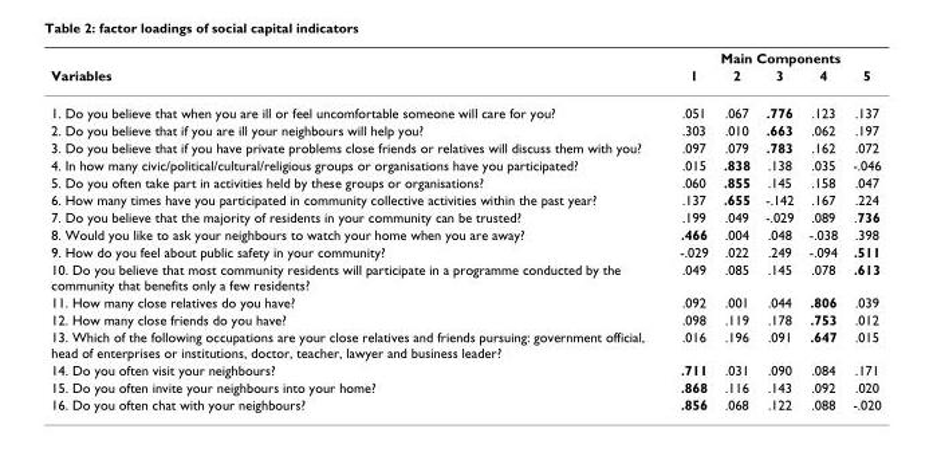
<table><thead><tr><td rowspan="2">Variables</td><td colspan="5">Main Components</td></tr><tr><td>1</td><td>2</td><td>3</td><td>4</td><td>5</td></tr></thead><tbody><tr><td>1. Do you believe that when you are ill or feel uncomfortable someone will care for you?</td><td>.051</td><td>.067</td><td>.776</td><td>.123</td><td>.137</td></tr><tr><td>2. Do you believe that if you are ill your neighbours will help you?</td><td>.303</td><td>.010</td><td>.663</td><td>.062</td><td>.197</td></tr><tr><td>3. Do you believe that if you have private problems close friends or relatives will discuss them with you?</td><td>.097</td><td>.079</td><td>.783</td><td>.162</td><td>.072</td></tr><tr><td>4. In how many civic/political/cultural/religious groups or organisations have you participated?</td><td>.015</td><td>.838</td><td>.138</td><td>.035</td><td>-.046</td></tr><tr><td>5. Do you often take part in activities held by these groups or organisations?</td><td>.060</td><td>.855</td><td>.145</td><td>.158</td><td>.047</td></tr><tr><td>6. How many times have you participated in community collective activities within the past year?</td><td>.137</td><td>.655</td><td>-.142</td><td>.167</td><td>.224</td></tr><tr><td>7. Do you believe that the majority of residents in your community can be trusted?</td><td>.199</td><td>.049</td><td>-.029</td><td>.089</td><td>.736</td></tr><tr><td>8. Would you like to ask your neighbours to watch your home when you are away?</td><td>.466</td><td>.004</td><td>.048</td><td>-.038</td><td>.398</td></tr><tr><td>9. How do you feel about public safety in your community?</td><td>-.029</td><td>.022</td><td>.249</td><td>-.094</td><td>.511</td></tr><tr><td>10. Do you believe that most community residents will participate in a programme conducted by the community that benefits only a few residents?</td><td>.049</td><td>.085</td><td>.145</td><td>.078</td><td>.613</td></tr><tr><td>11. How many close relatives do you have?</td><td>.092</td><td>.001</td><td>.044</td><td>.806</td><td>.039</td></tr><tr><td>12. How many close friends do you have?</td><td>.098</td><td>.119</td><td>.178</td><td>.753</td><td>.012</td></tr><tr><td>13. Which of the following occupations are your close relatives and friends pursuing: government official, head of enterprises or institutions, doctor, teacher, lawyer and business leader?</td><td>.016</td><td>.196</td><td>.091</td><td>.647</td><td>.015</td></tr><tr><td>14. Do you often visit your neighbours?</td><td>.711</td><td>.031</td><td>.090</td><td>.084</td><td>.171</td></tr><tr><td>15. Do you often invite your neighbours into your home?</td><td>.868</td><td>.116</td><td>.143</td><td>.092</td><td>.020</td></tr><tr><td>16. Do you often chat with your neighbours?</td><td>.856</td><td>.068</td><td>.122</td><td>.088</td><td>-.020</td></tr></tbody></table>